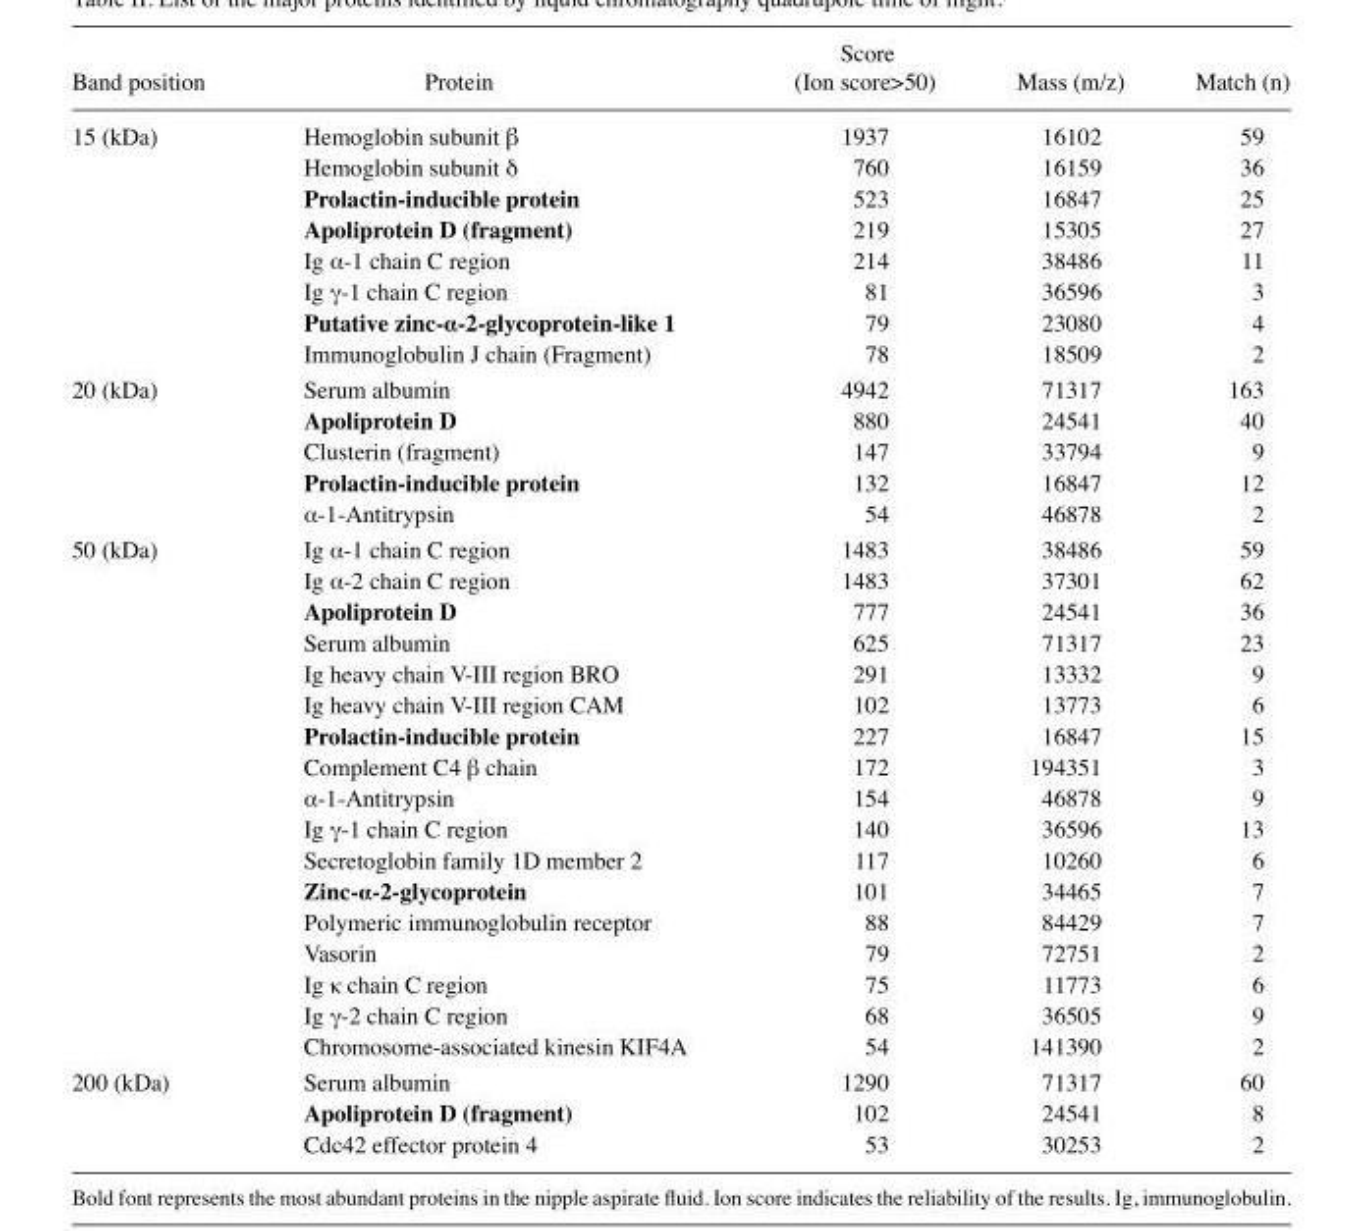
<table><thead><tr><td>Band position</td><td>Protein</td><td>(Ion score&gt;50)</td><td>Mass (m/z)</td><td>Match (n)</td></tr></thead><tbody><tr><td rowspan="8">15 (kDa)</td><td>Hemoglobin subunit β</td><td>1937</td><td>16102</td><td>59</td></tr><tr><td>Hemoglobin subunit δ</td><td>760</td><td>16159</td><td>36</td></tr><tr><td>Prolactin‑inducible protein</td><td>523</td><td>16847</td><td>25</td></tr><tr><td>Apoliprotein D (fragment)</td><td>219</td><td>15305</td><td>27</td></tr><tr><td>Ig α‑1 chain C region</td><td>214</td><td>38486</td><td>11</td></tr><tr><td>Ig γ‑1 chain C region</td><td>81</td><td>36596</td><td>3</td></tr><tr><td>Putative zinc‑α‑2‑glycoprotein‑like 1</td><td>79</td><td>23080</td><td>4</td></tr><tr><td>Immunoglobulin J chain (Fragment)</td><td>78</td><td>18509</td><td>2</td></tr><tr><td rowspan="5">20 (kDa)</td><td>Serum albumin</td><td>4942</td><td>71317</td><td>163</td></tr><tr><td>Apoliprotein D</td><td>880</td><td>24541</td><td>40</td></tr><tr><td>Clusterin (fragment)</td><td>147</td><td>33794</td><td>9</td></tr><tr><td>Prolactin‑inducible protein</td><td>132</td><td>16847</td><td>12</td></tr><tr><td>α‑1‑Antitrypsin</td><td>54</td><td>46878</td><td>2</td></tr><tr><td rowspan="17">50 (kDa)</td><td>Ig α‑1 chain C region</td><td>1483</td><td>38486</td><td>59</td></tr><tr><td>Ig α‑2 chain C region</td><td>1483</td><td>37301</td><td>62</td></tr><tr><td>Apoliprotein D</td><td>777</td><td>24541</td><td>36</td></tr><tr><td>Serum albumin</td><td>625</td><td>71317</td><td>23</td></tr><tr><td>Ig heavy chain V‑III region BRO</td><td>291</td><td>13332</td><td>9</td></tr><tr><td>Ig heavy chain V‑III region CAM</td><td>102</td><td>13773</td><td>6</td></tr><tr><td>Prolactin‑inducible protein</td><td>227</td><td>16847</td><td>15</td></tr><tr><td>Complement C4 β chain</td><td>172</td><td>194351</td><td>3</td></tr><tr><td>α‑1‑Antitrypsin</td><td>154</td><td>46878</td><td>9</td></tr><tr><td>Ig γ‑1 chain C region</td><td>140</td><td>36596</td><td>13</td></tr><tr><td>Secretoglobin family 1D member 2</td><td>117</td><td>10260</td><td>6</td></tr><tr><td>Zinc‑α‑2‑glycoprotein</td><td>101</td><td>34465</td><td>7</td></tr><tr><td>Polymeric immunoglobulin receptor</td><td>88</td><td>84429</td><td>7</td></tr><tr><td>Vasorin</td><td>79</td><td>72751</td><td>2</td></tr><tr><td>Ig κ chain C region</td><td>75</td><td>11773</td><td>6</td></tr><tr><td>Ig γ‑2 chain C region</td><td>68</td><td>36505</td><td>9</td></tr><tr><td>Chromosome‑associated kinesin KIF4A</td><td>54</td><td>141390</td><td>2</td></tr><tr><td rowspan="3">200 (kDa)</td><td>Serum albumin</td><td>1290</td><td>71317</td><td>60</td></tr><tr><td>Apoliprotein D (fragment)</td><td>102</td><td>24541</td><td>8</td></tr><tr><td>Cdc42 effector protein 4</td><td>53</td><td>30253</td><td>2</td></tr></tbody></table>